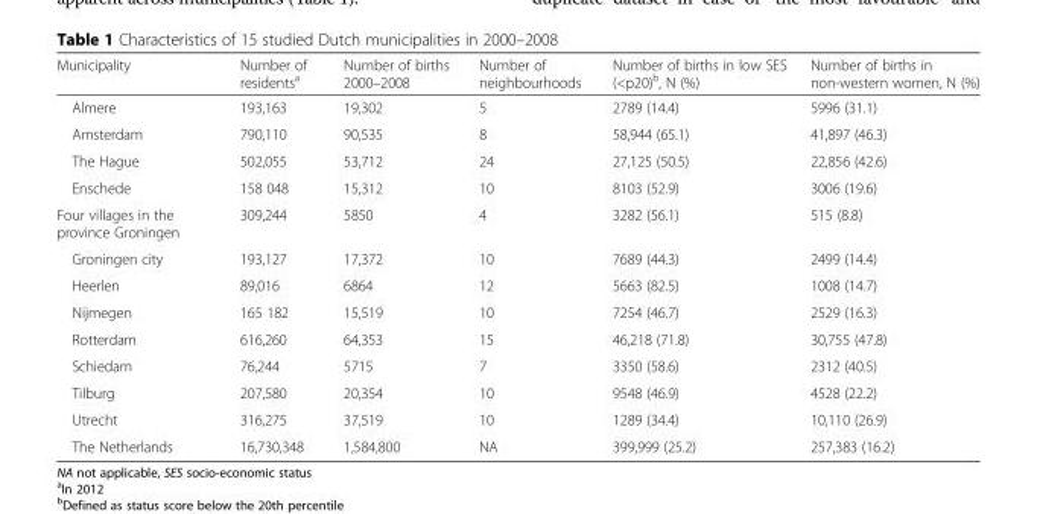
<table><thead><tr><td>Municipality</td><td>Number of residents<sup>a</sup></td><td>Number of births 2000–2008</td><td>Number of neighbourhoods</td><td>Number of births in low SES (&lt;p20)<sup>b</sup>, N (%)</td><td>Number of births in non-western women, N (%)</td></tr></thead><tbody><tr><td>Almere</td><td>193,163</td><td>19,302</td><td>5</td><td>2789 (14.4)</td><td>5996 (31.1)</td></tr><tr><td>Amsterdam</td><td>790,110</td><td>90,535</td><td>8</td><td>58,944 (65.1)</td><td>41,897 (46.3)</td></tr><tr><td>The Hague</td><td>502,055</td><td>53,712</td><td>24</td><td>27,125 (50.5)</td><td>22,856 (42.6)</td></tr><tr><td>Enschede</td><td>158 048</td><td>15,312</td><td>10</td><td>8103 (52.9)</td><td>3006 (19.6)</td></tr><tr><td>Four villages in the province Groningen</td><td>309,244</td><td>5850</td><td>4</td><td>3282 (56.1)</td><td>515 (8.8)</td></tr><tr><td>Groningen city</td><td>193,127</td><td>17,372</td><td>10</td><td>7689 (44.3)</td><td>2499 (14.4)</td></tr><tr><td>Heerlen</td><td>89,016</td><td>6864</td><td>12</td><td>5663 (82.5)</td><td>1008 (14.7)</td></tr><tr><td>Nijmegen</td><td>165 182</td><td>15,519</td><td>10</td><td>7254 (46.7)</td><td>2529 (16.3)</td></tr><tr><td>Rotterdam</td><td>616,260</td><td>64,353</td><td>15</td><td>46,218 (71.8)</td><td>30,755 (47.8)</td></tr><tr><td>Schiedam</td><td>76,244</td><td>5715</td><td>7</td><td>3350 (58.6)</td><td>2312 (40.5)</td></tr><tr><td>Tilburg</td><td>207,580</td><td>20,354</td><td>10</td><td>9548 (46.9)</td><td>4528 (22.2)</td></tr><tr><td>Utrecht</td><td>316,275</td><td>37,519</td><td>10</td><td>1289 (34.4)</td><td>10,110 (26.9)</td></tr><tr><td>The Netherlands</td><td>16,730,348</td><td>1,584,800</td><td>NA</td><td>399,999 (25.2)</td><td>257,383 (16.2)</td></tr></tbody></table>